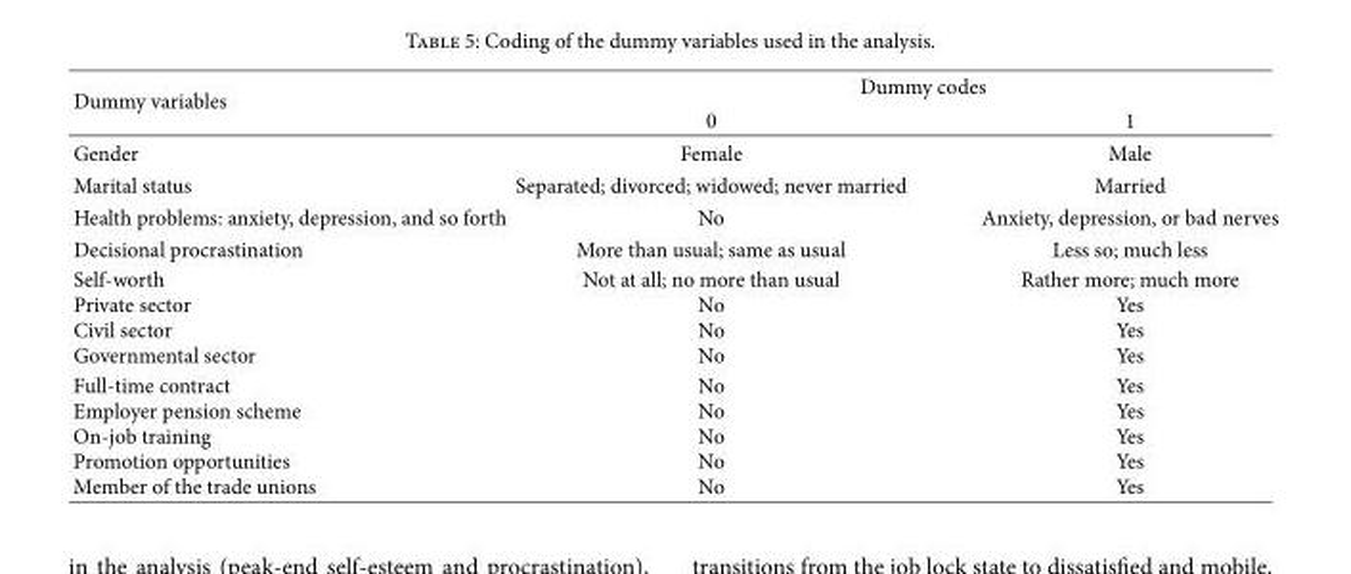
<table><thead><tr><td rowspan="2">Dummy variables</td><td colspan="2">Dummy codes</td></tr><tr><td>0</td><td>1</td></tr></thead><tbody><tr><td>Gender</td><td>Female</td><td>Male</td></tr><tr><td>Marital status</td><td>Separated; divorced; widowed; never married</td><td>Married</td></tr><tr><td>Health problems: anxiety, depression, and so forth</td><td>No</td><td>Anxiety, depression, or bad nerves</td></tr><tr><td>Decisional procrastination</td><td>More than usual; same as usual</td><td>Less so; much less</td></tr><tr><td>Self-worth Private sector Civil sector Governmental sector</td><td>Not at all; no more than usual No No No</td><td>Rather more; much more Yes Yes Yes</td></tr><tr><td>Full-time contract Employer pension scheme On-job training Promotion opportunities Member of the trade unions</td><td>No No No No No</td><td>Yes Yes Yes Yes Yes</td></tr></tbody></table>